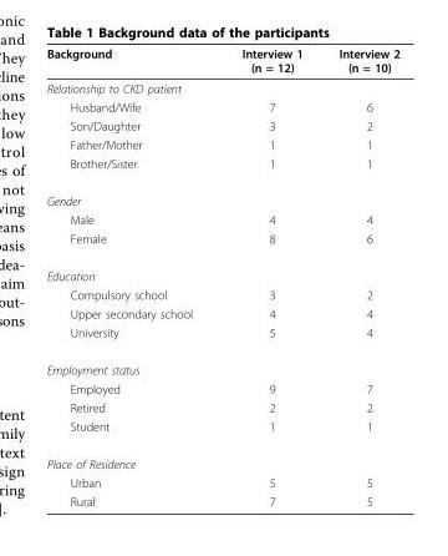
<table><thead><tr><td>Background</td><td>Interview 1 (n = 12)</td><td>Interview 2 (n = 10)</td></tr></thead><tbody><tr><td colspan="3">Relationship to CKD patient</td></tr><tr><td>Husband/Wife</td><td>7</td><td>6</td></tr><tr><td>Son/Daughter</td><td>3</td><td>2</td></tr><tr><td>Father/Mother</td><td>1</td><td>1</td></tr><tr><td>Brother/Sister</td><td>1</td><td>1</td></tr><tr><td colspan="3">Gender</td></tr><tr><td>Male</td><td>4</td><td>4</td></tr><tr><td>Female</td><td>8</td><td>6</td></tr><tr><td colspan="3">Education</td></tr><tr><td>Compulsory school</td><td>3</td><td>2</td></tr><tr><td>Upper secondary school</td><td>4</td><td>4</td></tr><tr><td>University</td><td>5</td><td>4</td></tr><tr><td colspan="3">Employment status</td></tr><tr><td>Employed</td><td>9</td><td>7</td></tr><tr><td>Retired</td><td>2</td><td>2</td></tr><tr><td>Student</td><td>1</td><td>1</td></tr><tr><td colspan="3">Place of Residence</td></tr><tr><td>Urban</td><td>5</td><td>5</td></tr><tr><td>Rural</td><td>7</td><td>5</td></tr></tbody></table>